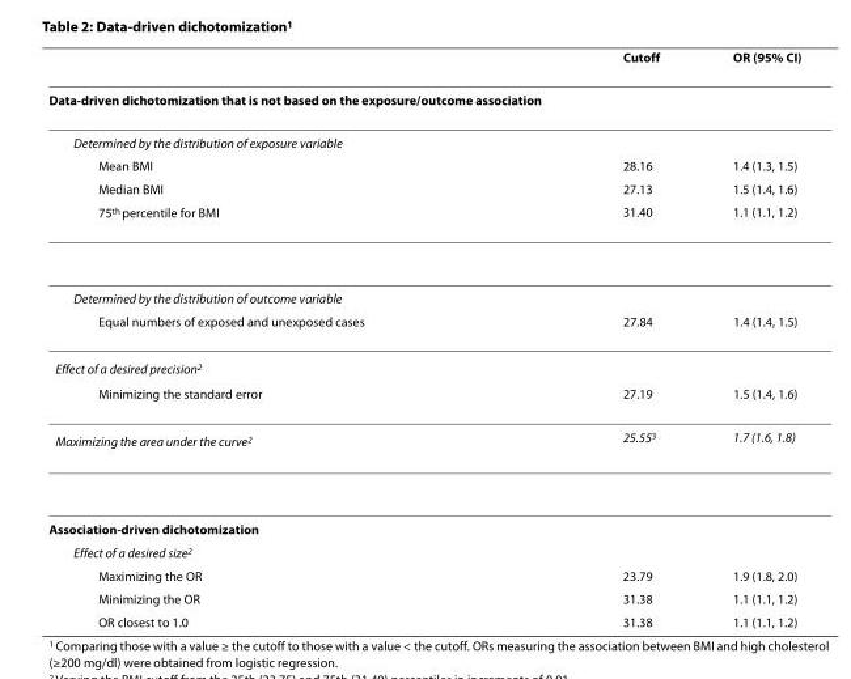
<table><thead><tr><td></td><td>Cutoff</td><td>OR (95% CI)</td></tr></thead><tbody><tr><td colspan="3">Data-driven dichotomization that is not based on the exposure/outcome association</td></tr><tr><td colspan="3">Determined by the distribution of exposure variable</td></tr><tr><td>Mean BMI</td><td>28.16</td><td>1.4 (1.3, 1.5)</td></tr><tr><td>Median BMI</td><td>27.13</td><td>1.5 (1.4, 1.6)</td></tr><tr><td>75th percentile for BMI</td><td>31.40</td><td>1.1 (1.1, 1.2)</td></tr><tr><td colspan="3">Determined by the distribution of outcome variable</td></tr><tr><td>Equal numbers of exposed and unexposed cases</td><td>27.84</td><td>1.4 (1.4, 1.5)</td></tr><tr><td colspan="3">Effect of a desired precision2</td></tr><tr><td>Minimizing the standard error</td><td>27.19</td><td>1.5 (1.4, 1.6)</td></tr><tr><td>Maximizing the area under the curve2</td><td>25.553</td><td>1.7 (1.6, 1.8)</td></tr><tr><td colspan="3">Association-driven dichotomization</td></tr><tr><td colspan="3">Effect of a desired size2</td></tr><tr><td>Maximizing the OR</td><td>23.79</td><td>1.9 (1.8, 2.0)</td></tr><tr><td>Minimizing the OR</td><td>31.38</td><td>1.1 (1.1, 1.2)</td></tr><tr><td>OR closest to 1.0</td><td>31.38</td><td>1.1 (1.1, 1.2)</td></tr></tbody></table>